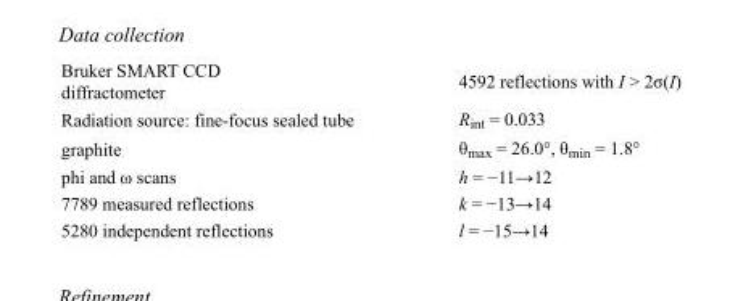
<table><tbody><tr><td>Bruker SMART CCD diffractometer</td><td>4592 reflections with I &gt; 2σ(I)</td></tr><tr><td>Radiation source: fine-focus sealed tube</td><td>R<sub>int</sub> = 0.033</td></tr><tr><td>graphite</td><td>θ<sub>max</sub> = 26.0°, θ<sub>min</sub> = 1.8°</td></tr><tr><td>phi and ω scans</td><td>h = −11→12</td></tr><tr><td>7789 measured reflections</td><td>k = −13→14</td></tr><tr><td>5280 independent reflections</td><td>l = −15→14</td></tr></tbody></table>